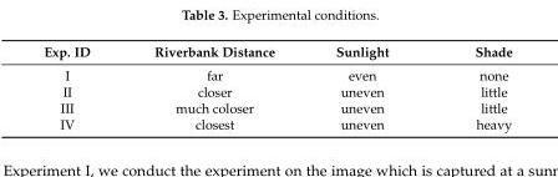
<table><thead><tr><td>Exp. ID</td><td>Riverbank Distance</td><td>Sunlight</td><td>Shade</td></tr></thead><tbody><tr><td>I</td><td>far</td><td>even</td><td>none</td></tr><tr><td>II</td><td>closer</td><td>uneven</td><td>little</td></tr><tr><td>III</td><td>much coloser</td><td>uneven</td><td>little</td></tr><tr><td>IV</td><td>closest</td><td>uneven</td><td>heavy</td></tr></tbody></table>